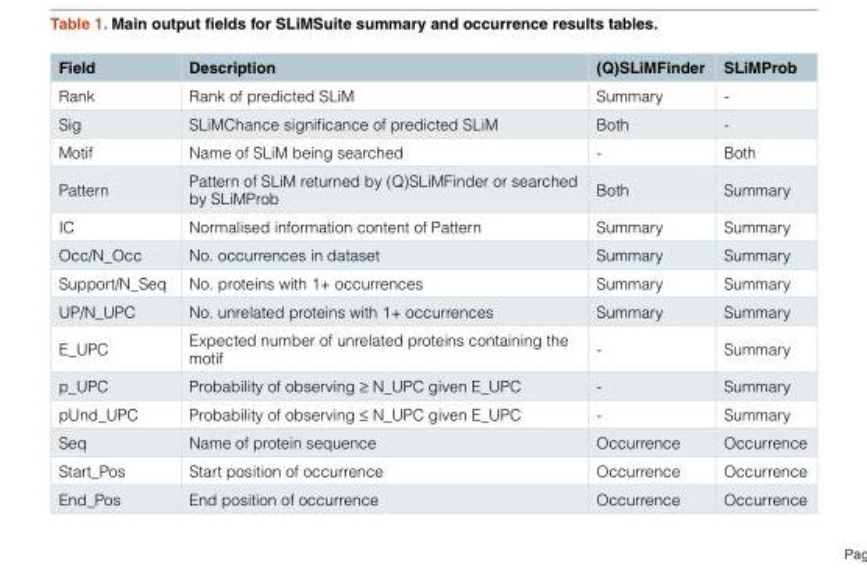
<table><thead><tr><td>Field</td><td>Description</td><td>(Q)SLiMFinder</td><td>SLiMProb</td></tr></thead><tbody><tr><td>Rank</td><td>Rank of predicted SLiM</td><td>Summary</td><td>-</td></tr><tr><td>Sig</td><td>SLiMChance significance of predicted SLiM</td><td>Both</td><td>-</td></tr><tr><td>Motif</td><td>Name of SLiM being searched</td><td>-</td><td>Both</td></tr><tr><td>Pattern</td><td>Pattern of SLiM returned by (Q)SLiMFinder or searched by SLiMProb</td><td>Both</td><td>Summary</td></tr><tr><td>IC</td><td>Normalised information content of Pattern</td><td>Summary</td><td>Summary</td></tr><tr><td>Occ/N_Occ</td><td>No. occurrences in dataset</td><td>Summary</td><td>Summary</td></tr><tr><td>Support/N_Seq</td><td>No. proteins with 1+ occurrences</td><td>Summary</td><td>Summary</td></tr><tr><td>UP/N_UPC</td><td>No. unrelated proteins with 1+ occurrences</td><td>Summary</td><td>Summary</td></tr><tr><td>E_UPC</td><td>Expected number of unrelated proteins containing the motif</td><td>-</td><td>Summary</td></tr><tr><td>p_UPC</td><td>Probability of observing ≥ N_UPC given E_UPC</td><td>-</td><td>Summary</td></tr><tr><td>pUnd_UPC</td><td>Probability of observing ≤ N_UPC given E_UPC</td><td>-</td><td>Summary</td></tr><tr><td>Seq</td><td>Name of protein sequence</td><td>Occurrence</td><td>Occurrence</td></tr><tr><td>Start_Pos</td><td>Start position of occurrence</td><td>Occurrence</td><td>Occurrence</td></tr><tr><td>End_Pos</td><td>End position of occurrence</td><td>Occurrence</td><td>Occurrence</td></tr></tbody></table>